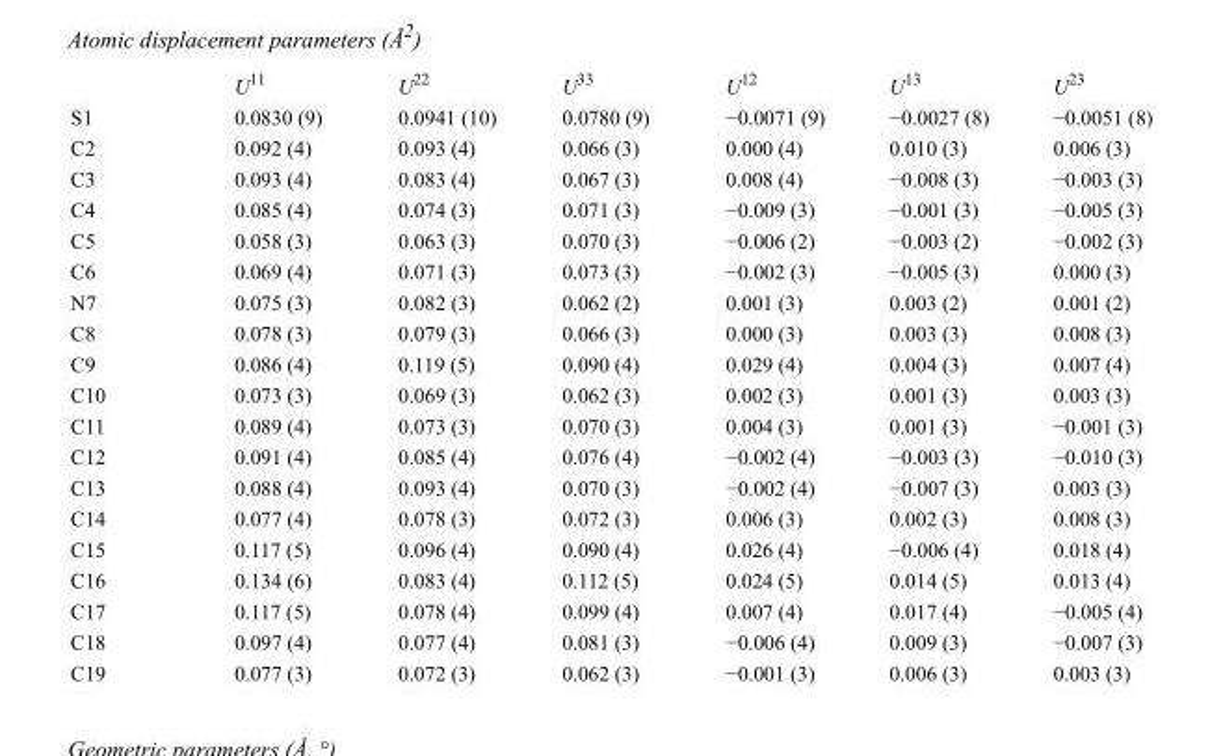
<table><thead><tr><td></td><td>U<sup>11</sup></td><td>U<sup>22</sup></td><td>U<sup>33</sup></td><td>U<sup>12</sup></td><td>U<sup>13</sup></td><td>U<sup>23</sup></td></tr></thead><tbody><tr><td>S1</td><td>0.0830 (9)</td><td>0.0941 (10)</td><td>0.0780 (9)</td><td>−0.0071 (9)</td><td>−0.0027 (8)</td><td>−0.0051 (8)</td></tr><tr><td>C2</td><td>0.092 (4)</td><td>0.093 (4)</td><td>0.066 (3)</td><td>0.000 (4)</td><td>0.010 (3)</td><td>0.006 (3)</td></tr><tr><td>C3</td><td>0.093 (4)</td><td>0.083 (4)</td><td>0.067 (3)</td><td>0.008 (4)</td><td>−0.008 (3)</td><td>−0.003 (3)</td></tr><tr><td>C4</td><td>0.085 (4)</td><td>0.074 (3)</td><td>0.071 (3)</td><td>−0.009 (3)</td><td>−0.001 (3)</td><td>−0.005 (3)</td></tr><tr><td>C5</td><td>0.058 (3)</td><td>0.063 (3)</td><td>0.070 (3)</td><td>−0.006 (2)</td><td>−0.003 (2)</td><td>−0.002 (3)</td></tr><tr><td>C6</td><td>0.069 (4)</td><td>0.071 (3)</td><td>0.073 (3)</td><td>−0.002 (3)</td><td>−0.005 (3)</td><td>0.000 (3)</td></tr><tr><td>N7</td><td>0.075 (3)</td><td>0.082 (3)</td><td>0.062 (2)</td><td>0.001 (3)</td><td>0.003 (2)</td><td>0.001 (2)</td></tr><tr><td>C8</td><td>0.078 (3)</td><td>0.079 (3)</td><td>0.066 (3)</td><td>0.000 (3)</td><td>0.003 (3)</td><td>0.008 (3)</td></tr><tr><td>C9</td><td>0.086 (4)</td><td>0.119 (5)</td><td>0.090 (4)</td><td>0.029 (4)</td><td>0.004 (3)</td><td>0.007 (4)</td></tr><tr><td>C10</td><td>0.073 (3)</td><td>0.069 (3)</td><td>0.062 (3)</td><td>0.002 (3)</td><td>0.001 (3)</td><td>0.003 (3)</td></tr><tr><td>C11</td><td>0.089 (4)</td><td>0.073 (3)</td><td>0.070 (3)</td><td>0.004 (3)</td><td>0.001 (3)</td><td>−0.001 (3)</td></tr><tr><td>C12</td><td>0.091 (4)</td><td>0.085 (4)</td><td>0.076 (4)</td><td>−0.002 (4)</td><td>−0.003 (3)</td><td>−0.010 (3)</td></tr><tr><td>C13</td><td>0.088 (4)</td><td>0.093 (4)</td><td>0.070 (3)</td><td>−0.002 (4)</td><td>−0.007 (3)</td><td>0.003 (3)</td></tr><tr><td>C14</td><td>0.077 (4)</td><td>0.078 (3)</td><td>0.072 (3)</td><td>0.006 (3)</td><td>0.002 (3)</td><td>0.008 (3)</td></tr><tr><td>C15</td><td>0.117 (5)</td><td>0.096 (4)</td><td>0.090 (4)</td><td>0.026 (4)</td><td>−0.006 (4)</td><td>0.018 (4)</td></tr><tr><td>C16</td><td>0.134 (6)</td><td>0.083 (4)</td><td>0.112 (5)</td><td>0.024 (5)</td><td>0.014 (5)</td><td>0.013 (4)</td></tr><tr><td>C17</td><td>0.117 (5)</td><td>0.078 (4)</td><td>0.099 (4)</td><td>0.007 (4)</td><td>0.017 (4)</td><td>−0.005 (4)</td></tr><tr><td>C18</td><td>0.097 (4)</td><td>0.077 (4)</td><td>0.081 (3)</td><td>−0.006 (4)</td><td>0.009 (3)</td><td>−0.007 (3)</td></tr><tr><td>C19</td><td>0.077 (3)</td><td>0.072 (3)</td><td>0.062 (3)</td><td>−0.001 (3)</td><td>0.006 (3)</td><td>0.003 (3)</td></tr></tbody></table>